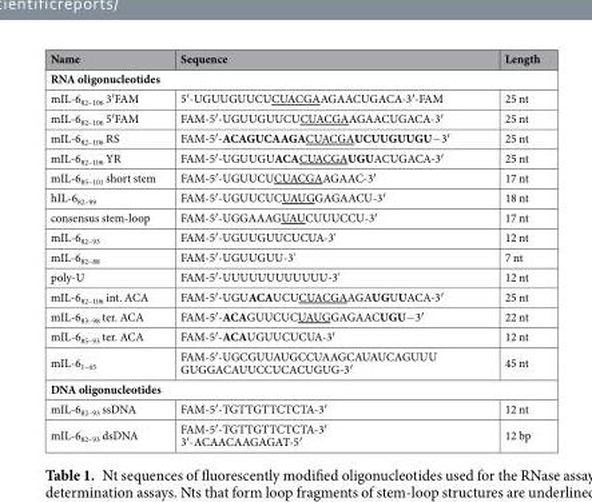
<table><thead><tr><td>Name</td><td>Sequence</td><td>Length</td></tr></thead><tbody><tr><td colspan="3">RNA oligonucleotides</td></tr><tr><td>mIL-6<sub>82–106</sub> 3′FAM</td><td>5′-UGUUGUUCUCUACGAAGAACUGACA-3′-FAM</td><td>25 nt</td></tr><tr><td>mIL-6<sub>82–106</sub> 5′FAM</td><td>FAM-5′-UGUUGUUCUCUACGAAGAACUGACA-3′</td><td>25 nt</td></tr><tr><td>mIL-6<sub>82–106</sub> RS</td><td>FAM-5′-ACAGUCAAGACUACGAUCUUGUUGU−3′</td><td>25 nt</td></tr><tr><td>mIL-6<sub>82–106</sub> YR</td><td>FAM-5′-UGUUGUACACUACGAUGUACUGACA-3′</td><td>25 nt</td></tr><tr><td>mIL-6<sub>85–101</sub> short stem</td><td>FAM-5′-UGUUCUCUACGAAGAAC-3′</td><td>17 nt</td></tr><tr><td>hIL-6<sub>82–99</sub></td><td>FAM-5′-UGUUCUCUAUGGAGAACU-3′</td><td>18 nt</td></tr><tr><td>consensus stem-loop</td><td>FAM-5′-UGGAAAGUAUCUUUCCU-3′</td><td>17 nt</td></tr><tr><td>mIL-6<sub>82–93</sub></td><td>FAM-5′-UGUUGUUCUCUA-3&#x27;</td><td>12 nt</td></tr><tr><td>mIL-6<sub>82–88</sub></td><td>FAM-5′-UGUUGUU-3&#x27;</td><td>7 nt</td></tr><tr><td>poly-U</td><td>FAM-5′-UUUUUUUUUUUU-3&#x27;</td><td>12 nt</td></tr><tr><td>mIL-6<sub>82–106</sub> int. ACA</td><td>FAM-5′-UGUACAUCUCUACGAAGAUGUUACA-3′</td><td>25 nt</td></tr><tr><td>mIL-6<sub>83–98</sub> ter. ACA</td><td>FAM-5′-ACAGUUCUCUAUGGAGAACUGU−3′</td><td>22 nt</td></tr><tr><td>mIL-6<sub>85–93</sub> ter. ACA</td><td>FAM-5′-ACAUGUUCUCUA-3′</td><td>12 nt</td></tr><tr><td>mIL-6<sub>1–45</sub></td><td>FAM-5′-UGCGUUAUGCCUAAGCAUAUCAGUUU GUGGACAUUCCUCACUGUG-3′</td><td>45 nt</td></tr><tr><td colspan="3">DNA oligonucleotides</td></tr><tr><td>mIL-6<sub>82–93</sub> ssDNA</td><td>FAM-5′-TGTTGTTCTCTA-3′</td><td>12 nt</td></tr><tr><td>mIL-6<sub>82–93</sub> dsDNA</td><td>FAM-5′-TGTTGTTCTCTA-3′ 3′-ACAACAAGAGAT-5′</td><td>12 bp</td></tr></tbody></table>